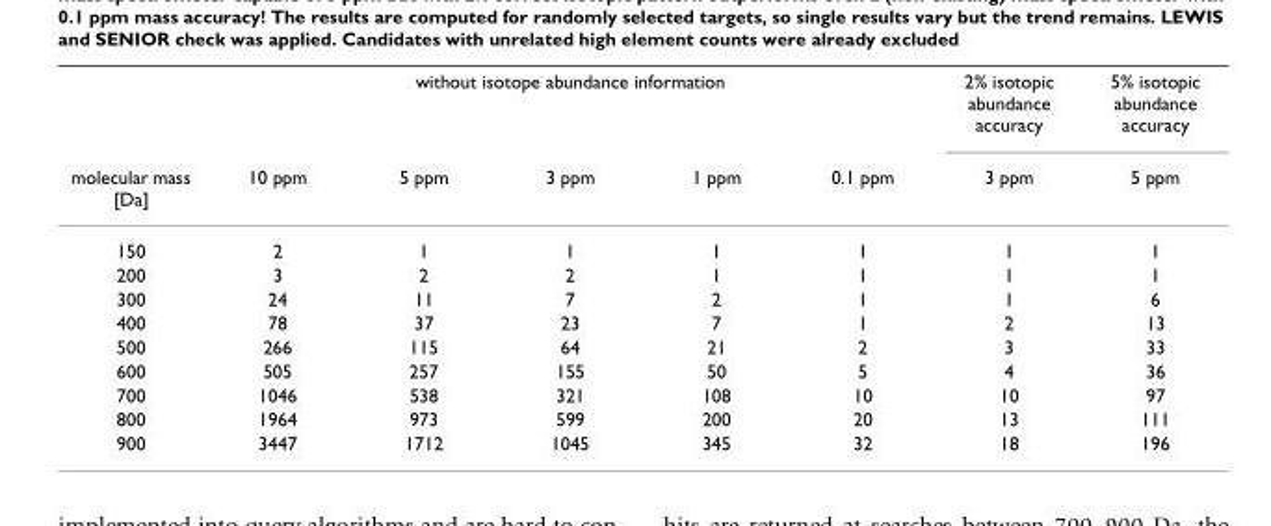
<table><thead><tr><td rowspan="2">molecular mass [Da]</td><td colspan="5">without isotope abundance information</td><td rowspan="2">2% isotopic abundance accuracy 3 ppm</td><td rowspan="2">5% isotopic abundance accuracy 5 ppm</td></tr><tr><td>10 ppm</td><td>5 ppm</td><td>3 ppm</td><td>1 ppm</td><td>0.1 ppm</td></tr></thead><tbody><tr><td>150</td><td>2</td><td>1</td><td>1</td><td>1</td><td>1</td><td>1</td><td>1</td></tr><tr><td>200</td><td>3</td><td>2</td><td>2</td><td>1</td><td>1</td><td>1</td><td>1</td></tr><tr><td>300</td><td>24</td><td>11</td><td>7</td><td>2</td><td>1</td><td>1</td><td>6</td></tr><tr><td>400</td><td>78</td><td>37</td><td>23</td><td>7</td><td>1</td><td>2</td><td>13</td></tr><tr><td>500</td><td>266</td><td>115</td><td>64</td><td>21</td><td>2</td><td>3</td><td>33</td></tr><tr><td>600</td><td>505</td><td>257</td><td>155</td><td>50</td><td>5</td><td>4</td><td>36</td></tr><tr><td>700</td><td>1046</td><td>538</td><td>321</td><td>108</td><td>10</td><td>10</td><td>97</td></tr><tr><td>800</td><td>1964</td><td>973</td><td>599</td><td>200</td><td>20</td><td>13</td><td>111</td></tr><tr><td>900</td><td>3447</td><td>1712</td><td>1045</td><td>345</td><td>32</td><td>18</td><td>196</td></tr></tbody></table>